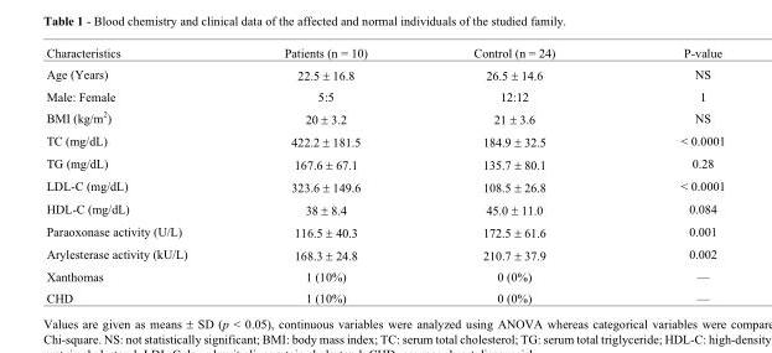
<table><thead><tr><td>Characteristics</td><td>Patients (n = 10)</td><td>Control (n = 24)</td><td>P-value</td></tr></thead><tbody><tr><td>Age (Years)</td><td>22.5 ± 16.8</td><td>26.5 ± 14.6</td><td>NS</td></tr><tr><td>Male: Female</td><td>5:5</td><td>12:12</td><td>1</td></tr><tr><td>BMI (kg/m<sup>2</sup>)</td><td>20 ± 3.2</td><td>21 ± 3.6</td><td>NS</td></tr><tr><td>TC (mg/dL)</td><td>422.2 ± 181.5</td><td>184.9 ± 32.5</td><td>&lt; 0.0001</td></tr><tr><td>TG (mg/dL)</td><td>167.6 ± 67.1</td><td>135.7 ± 80.1</td><td>0.28</td></tr><tr><td>LDL-C (mg/dL)</td><td>323.6 ± 149.6</td><td>108.5 ± 26.8</td><td>&lt; 0.0001</td></tr><tr><td>HDL-C (mg/dL)</td><td>38 ± 8.4</td><td>45.0 ± 11.0</td><td>0.084</td></tr><tr><td>Paraoxonase activity (U/L)</td><td>116.5 ± 40.3</td><td>172.5 ± 61.6</td><td>0.001</td></tr><tr><td>Arylesterase activity (kU/L)</td><td>168.3 ± 24.8</td><td>210.7 ± 37.9</td><td>0.002</td></tr><tr><td>Xanthomas</td><td>1 (10%)</td><td>0 (0%)</td><td>—</td></tr><tr><td>CHD</td><td>1 (10%)</td><td>0 (0%)</td><td>—</td></tr></tbody></table>